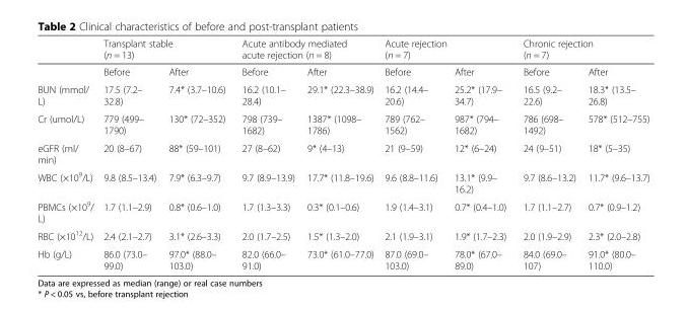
<table><thead><tr><td rowspan="2"></td><td colspan="2">Transplant stable (n = 13)</td><td colspan="2">Acute antibody mediated acute rejection (n = 8)</td><td colspan="2">Acute rejection (n = 7)</td><td colspan="2">Chronic rejection (n = 7)</td></tr><tr><td>Before</td><td>After</td><td>Before</td><td>After</td><td>Before</td><td>After</td><td>Before</td><td>After</td></tr></thead><tbody><tr><td>BUN (mmol/ L)</td><td>17.5 (7.2– 32.8)</td><td>7.4* (3.7–10.6)</td><td>16.2 (10.1– 28.4)</td><td>29.1* (22.3–38.9)</td><td>16.2 (14.4– 20.6)</td><td>25.2* (17.9– 34.7)</td><td>16.5 (9.2– 22.6)</td><td>18.3* (13.5– 26.8)</td></tr><tr><td>Cr (umol/L)</td><td>779 (499– 1790)</td><td>130* (72–352)</td><td>798 (739– 1682)</td><td>1387* (1098– 1786)</td><td>789 (762– 1562)</td><td>987* (794– 1682)</td><td>786 (698– 1492)</td><td>578* (512–755)</td></tr><tr><td>eGFR (ml/ min)</td><td>20 (8–67)</td><td>88* (59–101)</td><td>27 (8–62)</td><td>9* (4–13)</td><td>21 (9–59)</td><td>12* (6–24)</td><td>24 (9–51)</td><td>18* (5–35)</td></tr><tr><td>WBC (×10<sup>9</sup>/L)</td><td>9.8 (8.5–13.4)</td><td>7.9* (6.3–9.7)</td><td>9.7 (8.9–13.9)</td><td>17.7* (11.8–19.6)</td><td>9.6 (8.8–11.6)</td><td>13.1* (9.9– 16.2)</td><td>9.7 (8.6–13.2)</td><td>11.7* (9.6–13.7)</td></tr><tr><td>PBMCs (×10<sup>9</sup>/ L)</td><td>1.7 (1.1–2.9)</td><td>0.8* (0.6–1.0)</td><td>1.7 (1.3–3.3)</td><td>0.3* (0.1–0.6)</td><td>1.9 (1.4–3.1)</td><td>0.7* (0.4–1.0)</td><td>1.7 (1.1–2.7)</td><td>0.7* (0.9–1.2)</td></tr><tr><td>RBC (×10<sup>12</sup>/L)</td><td>2.4 (2.1–2.7)</td><td>3.1* (2.6–3.3)</td><td>2.0 (1.7–2.5)</td><td>1.5* (1.3–2.0)</td><td>2.1 (1.9–3.1)</td><td>1.9* (1.7–2.3)</td><td>2.0 (1.9–2.9)</td><td>2.3* (2.0–2.8)</td></tr><tr><td>Hb (g/L)</td><td>86.0 (73.0– 99.0)</td><td>97.0* (88.0– 103.0)</td><td>82.0 (66.0– 91.0)</td><td>73.0* (61.0–77.0)</td><td>87.0 (69.0– 103.0)</td><td>78.0* (67.0– 89.0)</td><td>84.0 (69.0– 107)</td><td>91.0* (80.0– 110.0)</td></tr></tbody></table>